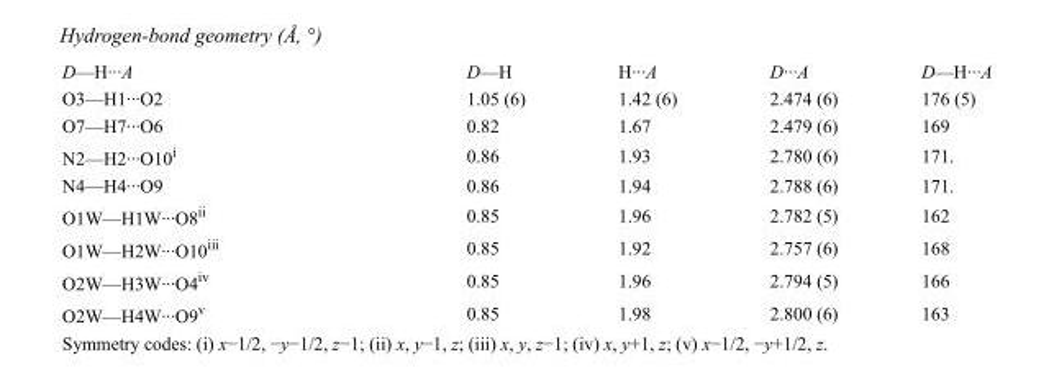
<table><tbody><tr><td>D—H···A</td><td>D—H</td><td>H···A</td><td>D···A</td><td>D—H···A</td></tr><tr><td>O3—H1···O2</td><td>1.05 (6)</td><td>1.42 (6)</td><td>2.474 (6)</td><td>176 (5)</td></tr><tr><td>O7—H7···O6</td><td>0.82</td><td>1.67</td><td>2.479 (6)</td><td>169</td></tr><tr><td>N2—H2···O10<sup>i</sup></td><td>0.86</td><td>1.93</td><td>2.780 (6)</td><td>171.</td></tr><tr><td>N4—H4···O9</td><td>0.86</td><td>1.94</td><td>2.788 (6)</td><td>171.</td></tr><tr><td>O1W—H1W···O8<sup>ii</sup></td><td>0.85</td><td>1.96</td><td>2.782 (5)</td><td>162</td></tr><tr><td>O1W—H2W···O10<sup>iii</sup></td><td>0.85</td><td>1.92</td><td>2.757 (6)</td><td>168</td></tr><tr><td>O2W—H3W···O4<sup>iv</sup></td><td>0.85</td><td>1.96</td><td>2.794 (5)</td><td>166</td></tr><tr><td>O2W—H4W···O9<sup>v</sup></td><td>0.85</td><td>1.98</td><td>2.800 (6)</td><td>163</td></tr></tbody></table>